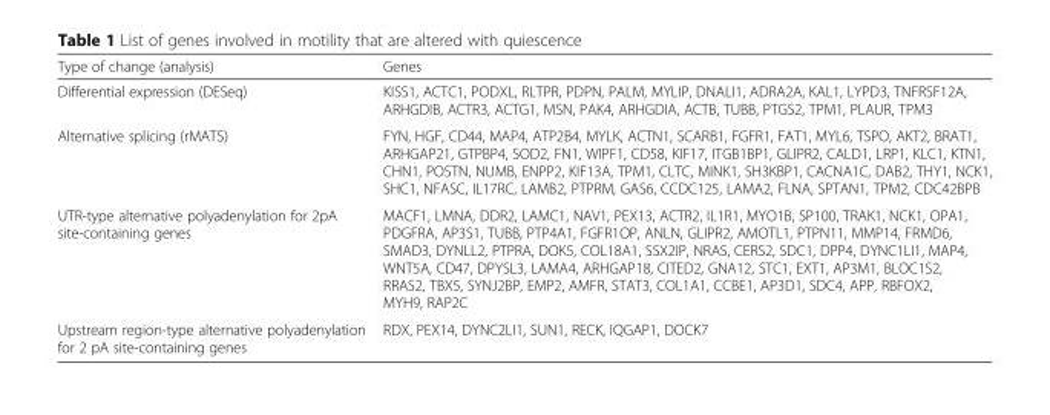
<table><thead><tr><td>Type of change (analysis)</td><td>Genes</td></tr></thead><tbody><tr><td>Differential expression (DESeq)</td><td>KISS1, ACTC1, PODXL, RLTPR, PDPN, PALM, MYLIP, DNALI1, ADRA2A, KAL1, LYPD3, TNFRSF12A, ARHGDIB, ACTR3, ACTG1, MSN, PAK4, ARHGDIA, ACTB, TUBB, PTGS2, TPM1, PLAUR, TPM3</td></tr><tr><td>Alternative splicing (rMATS)</td><td>FYN, HGF, CD44, MAP4, ATP2B4, MYLK, ACTN1, SCARB1, FGFR1, FAT1, MYL6, TSPO, AKT2, BRAT1, ARHGAP21, GTPBP4, SOD2, FN1, WIPF1, CD58, KIF17, ITGB1BP1, GLIPR2, CALD1, LRP1, KLC1, KTN1, CHN1, POSTN, NUMB, ENPP2, KIF13A, TPM1, CLTC, MINK1, SH3KBP1, CACNA1C, DAB2, THY1, NCK1, SHC1, NFASC, IL17RC, LAMB2, PTPRM, GAS6, CCDC125, LAMA2, FLNA, SPTAN1, TPM2, CDC42BPB</td></tr><tr><td>UTR-type alternative polyadenylation for 2pA site-containing genes</td><td>MACF1, LMNA, DDR2, LAMC1, NAV1, PEX13, ACTR2, IL1R1, MYO1B, SP100, TRAK1, NCK1, OPA1, PDGFRA, AP3S1, TUBB, PTP4A1, FGFR1OP, ANLN, GLIPR2, AMOTL1, PTPN11, MMP14, FRMD6, SMAD3, DYNLL2, PTPRA, DOK5, COL18A1, SSX2IP, NRAS, CERS2, SDC1, DPP4, DYNC1LI1, MAP4, WNT5A, CD47, DPYSL3, LAMA4, ARHGAP18, CITED2, GNA12, STC1, EXT1, AP3M1, BLOC1S2, RRAS2, TBX5, SYNJ2BP, EMP2, AMFR, STAT3, COL1A1, CCBE1, AP3D1, SDC4, APP, RBFOX2, MYH9, RAP2C</td></tr><tr><td>Upstream region-type alternative polyadenylation for 2 pA site-containing genes</td><td>RDX, PEX14, DYNC2LI1, SUN1, RECK, IQGAP1, DOCK7</td></tr></tbody></table>